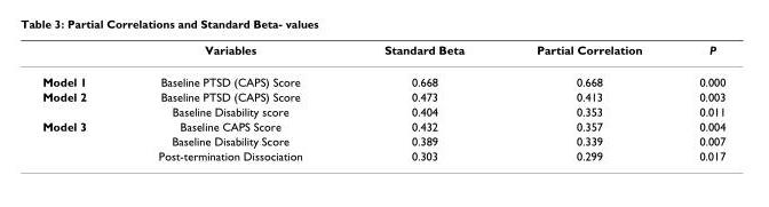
<table><thead><tr><td></td><td>Variables</td><td>Standard Beta</td><td>Partial Correlation</td><td>P</td></tr></thead><tbody><tr><td>Model 1</td><td>Baseline PTSD (CAPS) Score</td><td>0.668</td><td>0.668</td><td>0.000</td></tr><tr><td rowspan="2">Model 2</td><td>Baseline PTSD (CAPS) Score</td><td>0.473</td><td>0.413</td><td>0.003</td></tr><tr><td>Baseline Disability score</td><td>0.404</td><td>0.353</td><td>0.011</td></tr><tr><td rowspan="3">Model 3</td><td>Baseline CAPS Score</td><td>0.432</td><td>0.357</td><td>0.004</td></tr><tr><td>Baseline Disability Score</td><td>0.389</td><td>0.339</td><td>0.007</td></tr><tr><td>Post-termination Dissociation</td><td>0.303</td><td>0.299</td><td>0.017</td></tr></tbody></table>